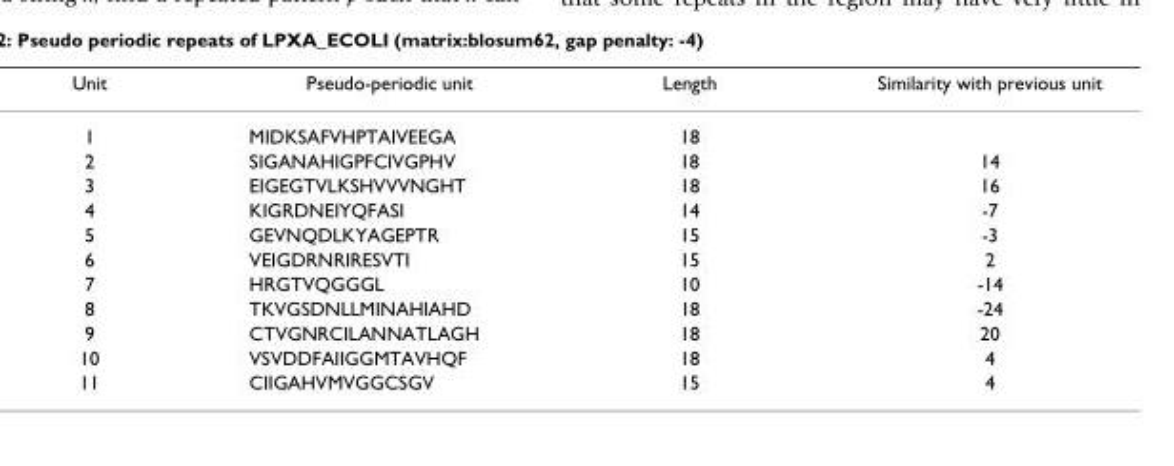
<table><thead><tr><td>Unit</td><td>Pseudo-periodic unit</td><td>Length</td><td>Similarity with previous unit</td></tr></thead><tbody><tr><td>1</td><td>MIDKSAFVHPTAIVEEGA</td><td>18</td><td></td></tr><tr><td>2</td><td>SIGANAHIGPFCIVGPHV</td><td>18</td><td>14</td></tr><tr><td>3</td><td>EIGEGTVLKSHVVVNGHT</td><td>18</td><td>16</td></tr><tr><td>4</td><td>KIGRDNEIYQFASI</td><td>14</td><td>-7</td></tr><tr><td>5</td><td>GEVNQDLKYAGEPTR</td><td>15</td><td>-3</td></tr><tr><td>6</td><td>VEIGDRNRIRESVTI</td><td>15</td><td>2</td></tr><tr><td>7</td><td>HRGTVQGGGL</td><td>10</td><td>-14</td></tr><tr><td>8</td><td>TKVGSDNLLMINAHIAHD</td><td>18</td><td>-24</td></tr><tr><td>9</td><td>CTVGNRCILANNATLAGH</td><td>18</td><td>20</td></tr><tr><td>10</td><td>VSVDDFAIIGGMTAVHQF</td><td>18</td><td>4</td></tr><tr><td>11</td><td>CIIGAHVMVGGCSGV</td><td>15</td><td>4</td></tr></tbody></table>